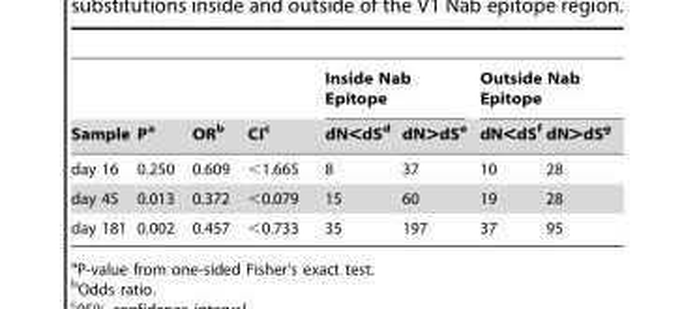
<table><thead><tr><td rowspan="2">Sample</td><td rowspan="2">P<sup>a</sup></td><td rowspan="2">OR<sup>b</sup></td><td rowspan="2">CI<sup>c</sup></td><td colspan="2">Inside Nab Epitope</td><td colspan="2">Outside Nab Epitope</td></tr><tr><td>dN&lt;dS<sup>d</sup></td><td>dN&gt;dS<sup>e</sup></td><td>dN&lt;dS<sup>f</sup></td><td>dN&gt;dS<sup>g</sup></td></tr></thead><tbody><tr><td>day 16</td><td>0.250</td><td>0.609</td><td>&lt;1.665</td><td>8</td><td>37</td><td>10</td><td>28</td></tr><tr><td>day 45</td><td>0.013</td><td>0.372</td><td>&lt;0.079</td><td>15</td><td>60</td><td>19</td><td>28</td></tr><tr><td>day 181</td><td>0.002</td><td>0.457</td><td>&lt;0.733</td><td>35</td><td>197</td><td>37</td><td>95</td></tr></tbody></table>